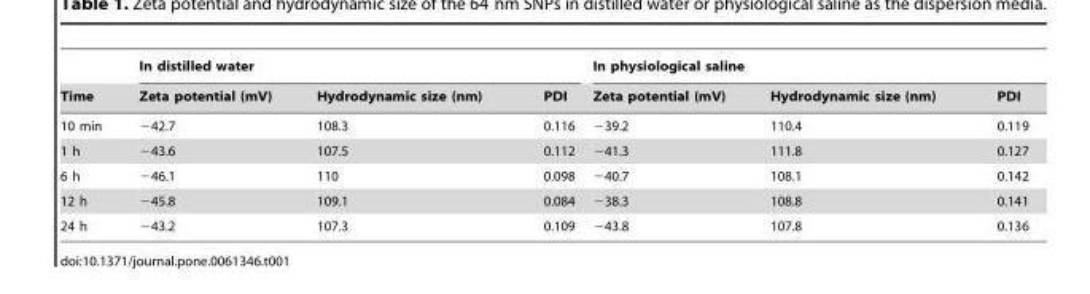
<table><thead><tr><td rowspan="2">Time</td><td colspan="3">In distilled water</td><td colspan="3">In physiological saline</td></tr><tr><td>Zeta potential (mV)</td><td>Hydrodynamic size (nm)</td><td>PDI</td><td>Zeta potential (mV)</td><td>Hydrodynamic size (nm)</td><td>PDI</td></tr></thead><tbody><tr><td>10 min</td><td>−42.7</td><td>108.3</td><td>0.116</td><td>−39.2</td><td>110.4</td><td>0.119</td></tr><tr><td>1 h</td><td>−43.6</td><td>107.5</td><td>0.112</td><td>−41.3</td><td>111.8</td><td>0.127</td></tr><tr><td>6 h</td><td>−46.1</td><td>110</td><td>0.098</td><td>−40.7</td><td>108.1</td><td>0.142</td></tr><tr><td>12 h</td><td>−45.8</td><td>109.1</td><td>0.084</td><td>−38.3</td><td>108.8</td><td>0.141</td></tr><tr><td>24 h</td><td>−43.2</td><td>107.3</td><td>0.109</td><td>−43.8</td><td>107.8</td><td>0.136</td></tr></tbody></table>